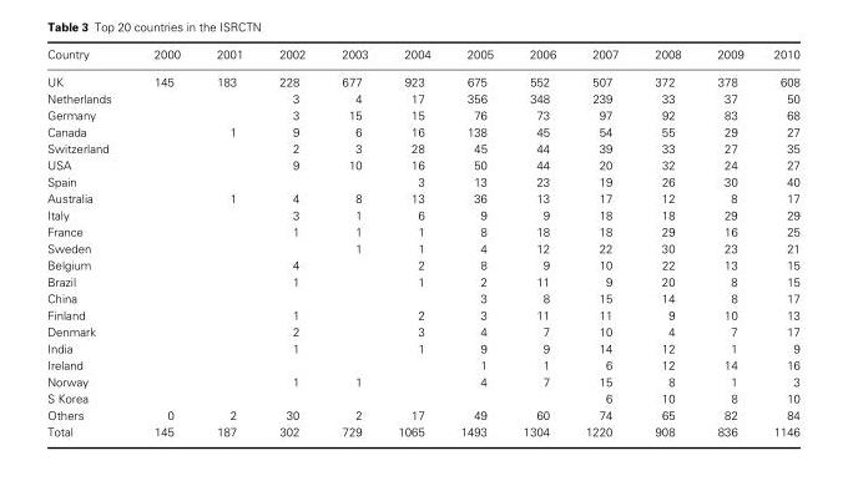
<table><thead><tr><td>Country</td><td>2000</td><td>2001</td><td>2002</td><td>2003</td><td>2004</td><td>2005</td><td>2006</td><td>2007</td><td>2008</td><td>2009</td><td>2010</td></tr></thead><tbody><tr><td>UK</td><td>145</td><td>183</td><td>228</td><td>677</td><td>923</td><td>675</td><td>552</td><td>507</td><td>372</td><td>378</td><td>608</td></tr><tr><td>Netherlands</td><td></td><td></td><td>3</td><td>4</td><td>17</td><td>356</td><td>348</td><td>239</td><td>33</td><td>37</td><td>50</td></tr><tr><td>Germany</td><td></td><td></td><td>3</td><td>15</td><td>15</td><td>76</td><td>73</td><td>97</td><td>92</td><td>83</td><td>68</td></tr><tr><td>Canada</td><td></td><td>1</td><td>9</td><td>6</td><td>16</td><td>138</td><td>45</td><td>54</td><td>55</td><td>29</td><td>27</td></tr><tr><td>Switzerland</td><td></td><td></td><td>2</td><td>3</td><td>28</td><td>45</td><td>44</td><td>39</td><td>33</td><td>27</td><td>35</td></tr><tr><td>USA</td><td></td><td></td><td>9</td><td>10</td><td>16</td><td>50</td><td>44</td><td>20</td><td>32</td><td>24</td><td>27</td></tr><tr><td>Spain</td><td></td><td></td><td></td><td></td><td>3</td><td>13</td><td>23</td><td>19</td><td>26</td><td>30</td><td>40</td></tr><tr><td>Australia</td><td></td><td>1</td><td>4</td><td>8</td><td>13</td><td>36</td><td>13</td><td>17</td><td>12</td><td>8</td><td>17</td></tr><tr><td>Italy</td><td></td><td></td><td>3</td><td>1</td><td>6</td><td>9</td><td>9</td><td>18</td><td>18</td><td>29</td><td>29</td></tr><tr><td>France</td><td></td><td></td><td>1</td><td>1</td><td>1</td><td>8</td><td>18</td><td>18</td><td>29</td><td>16</td><td>25</td></tr><tr><td>Sweden</td><td></td><td></td><td></td><td>1</td><td>1</td><td>4</td><td>12</td><td>22</td><td>30</td><td>23</td><td>21</td></tr><tr><td>Belgium</td><td></td><td></td><td>4</td><td></td><td>2</td><td>8</td><td>9</td><td>10</td><td>22</td><td>13</td><td>15</td></tr><tr><td>Brazil</td><td></td><td></td><td>1</td><td></td><td>1</td><td>2</td><td>11</td><td>9</td><td>20</td><td>8</td><td>15</td></tr><tr><td>China</td><td></td><td></td><td></td><td></td><td></td><td>3</td><td>8</td><td>15</td><td>14</td><td>8</td><td>17</td></tr><tr><td>Finland</td><td></td><td></td><td>1</td><td></td><td>2</td><td>3</td><td>11</td><td>11</td><td>9</td><td>10</td><td>13</td></tr><tr><td>Denmark</td><td></td><td></td><td>2</td><td></td><td>3</td><td>4</td><td>7</td><td>10</td><td>4</td><td>7</td><td>17</td></tr><tr><td>India</td><td></td><td></td><td>1</td><td></td><td>1</td><td>9</td><td>9</td><td>14</td><td>12</td><td>1</td><td>9</td></tr><tr><td>Ireland</td><td></td><td></td><td></td><td></td><td></td><td>1</td><td>1</td><td>6</td><td>12</td><td>14</td><td>16</td></tr><tr><td>Norway</td><td></td><td></td><td>1</td><td>1</td><td></td><td>4</td><td>7</td><td>15</td><td>8</td><td>1</td><td>3</td></tr><tr><td>S Korea</td><td></td><td></td><td></td><td></td><td></td><td></td><td></td><td>6</td><td>10</td><td>8</td><td>10</td></tr><tr><td>Others</td><td>0</td><td>2</td><td>30</td><td>2</td><td>17</td><td>49</td><td>60</td><td>74</td><td>65</td><td>82</td><td>84</td></tr><tr><td>Total</td><td>145</td><td>187</td><td>302</td><td>729</td><td>1065</td><td>1493</td><td>1304</td><td>1220</td><td>908</td><td>836</td><td>1146</td></tr></tbody></table>